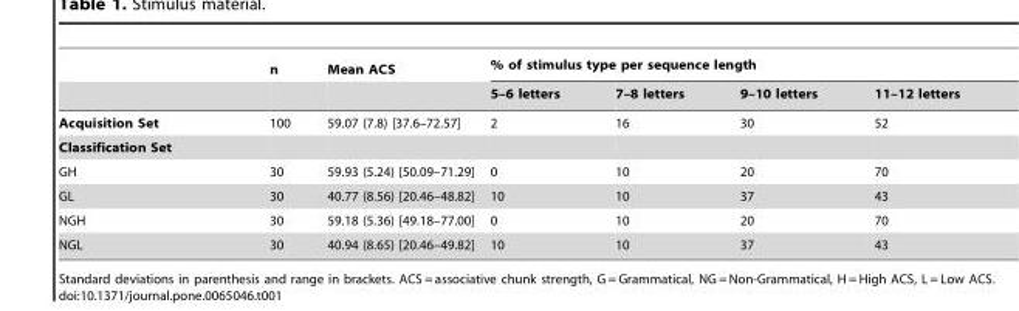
<table><thead><tr><td rowspan="2"></td><td rowspan="2">n</td><td rowspan="2">Mean ACS</td><td colspan="4">% of stimulus type per sequence length</td></tr><tr><td>5–6 letters</td><td>7–8 letters</td><td>9–10 letters</td><td>11–12 letters</td></tr></thead><tbody><tr><td>Acquisition Set</td><td>100</td><td>59.07 (7.8) [37.6–72.57]</td><td>2</td><td>16</td><td>30</td><td>52</td></tr><tr><td colspan="7">Classification Set</td></tr><tr><td>GH</td><td>30</td><td>59.93 (5.24) [50.09–71.29]</td><td>0</td><td>10</td><td>20</td><td>70</td></tr><tr><td>GL</td><td>30</td><td>40.77 (8.56) [20.46–48.82]</td><td>10</td><td>10</td><td>37</td><td>43</td></tr><tr><td>NGH</td><td>30</td><td>59.18 (5.36) [49.18–77.00]</td><td>0</td><td>10</td><td>20</td><td>70</td></tr><tr><td>NGL</td><td>30</td><td>40.94 (8.65) [20.46–49.82]</td><td>10</td><td>10</td><td>37</td><td>43</td></tr></tbody></table>